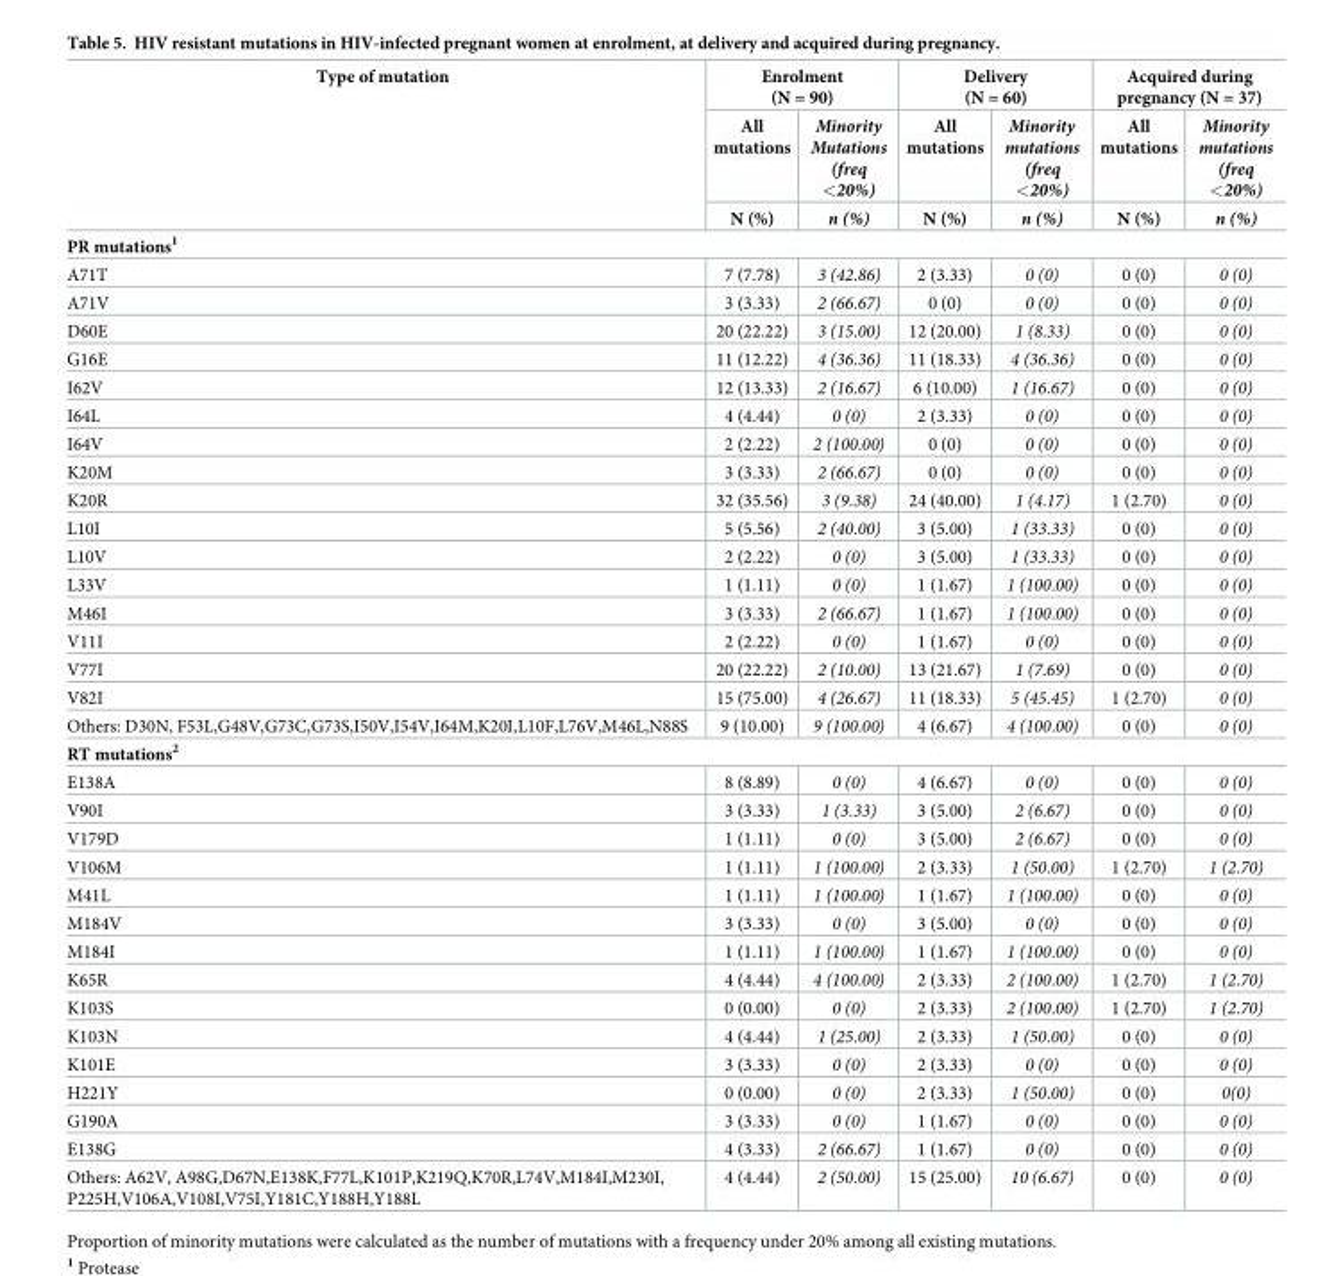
<table><thead><tr><td rowspan="3">Type of mutation</td><td colspan="2">Enrolment (N = 90)</td><td colspan="2">Delivery (N = 60)</td><td colspan="2">Acquired during pregnancy (N = 37)</td></tr><tr><td rowspan="2">All mutations N (%)</td><td rowspan="2">Minority Mutations (freq &lt;20%) n (%)</td><td rowspan="2">All mutations N (%)</td><td rowspan="2">Minority mutations (freq &lt;20%) n (%)</td><td rowspan="2">All mutations N (%)</td><td rowspan="2">Minority mutations (freq &lt;20%) n (%)</td></tr><tr></tr></thead><tbody><tr><td colspan="7">PR mutations<sup>1</sup></td></tr><tr><td>A71T</td><td>7 (7.78)</td><td>3 (42.86)</td><td>2 (3.33)</td><td>0 (0)</td><td>0 (0)</td><td>0 (0)</td></tr><tr><td>A71V</td><td>3 (3.33)</td><td>2 (66.67)</td><td>0 (0)</td><td>0 (0)</td><td>0 (0)</td><td>0 (0)</td></tr><tr><td>D60E</td><td>20 (22.22)</td><td>3 (15.00)</td><td>12 (20.00)</td><td>1 (8.33)</td><td>0 (0)</td><td>0 (0)</td></tr><tr><td>G16E</td><td>11 (12.22)</td><td>4 (36.36)</td><td>11 (18.33)</td><td>4 (36.36)</td><td>0 (0)</td><td>0 (0)</td></tr><tr><td>I62V</td><td>12 (13.33)</td><td>2 (16.67)</td><td>6 (10.00)</td><td>1 (16.67)</td><td>0 (0)</td><td>0 (0)</td></tr><tr><td>I64L</td><td>4 (4.44)</td><td>0 (0)</td><td>2 (3.33)</td><td>0 (0)</td><td>0 (0)</td><td>0 (0)</td></tr><tr><td>I64V</td><td>2 (2.22)</td><td>2 (100.00)</td><td>0 (0)</td><td>0 (0)</td><td>0 (0)</td><td>0 (0)</td></tr><tr><td>K20M</td><td>3 (3.33)</td><td>2 (66.67)</td><td>0 (0)</td><td>0 (0)</td><td>0 (0)</td><td>0 (0)</td></tr><tr><td>K20R</td><td>32 (35.56)</td><td>3 (9.38)</td><td>24 (40.00)</td><td>1 (4.17)</td><td>1 (2.70)</td><td>0 (0)</td></tr><tr><td>L10I</td><td>5 (5.56)</td><td>2 (40.00)</td><td>3 (5.00)</td><td>1 (33.33)</td><td>0 (0)</td><td>0 (0)</td></tr><tr><td>L10V</td><td>2 (2.22)</td><td>0 (0)</td><td>3 (5.00)</td><td>1 (33.33)</td><td>0 (0)</td><td>0 (0)</td></tr><tr><td>L33V</td><td>1 (1.11)</td><td>0 (0)</td><td>1 (1.67)</td><td>1 (100.00)</td><td>0 (0)</td><td>0 (0)</td></tr><tr><td>M46I</td><td>3 (3.33)</td><td>2 (66.67)</td><td>1 (1.67)</td><td>1 (100.00)</td><td>0 (0)</td><td>0 (0)</td></tr><tr><td>V11I</td><td>2 (2.22)</td><td>0 (0)</td><td>1 (1.67)</td><td>0 (0)</td><td>0 (0)</td><td>0 (0)</td></tr><tr><td>V77I</td><td>20 (22.22)</td><td>2 (10.00)</td><td>13 (21.67)</td><td>1 (7.69)</td><td>0 (0)</td><td>0 (0)</td></tr><tr><td>V82I</td><td>15 (75.00)</td><td>4 (26.67)</td><td>11 (18.33)</td><td>5 (45.45)</td><td>1 (2.70)</td><td>0 (0)</td></tr><tr><td>Others: D30N, F53L,G48V,G73C,G73S,I50V,I54V,I64M,K20I,L10F,L76V,M46L,N88S</td><td>9 (10.00)</td><td>9 (100.00)</td><td>4 (6.67)</td><td>4 (100.00)</td><td>0 (0)</td><td>0 (0)</td></tr><tr><td colspan="7">RT mutations<sup>2</sup></td></tr><tr><td>E138A</td><td>8 (8.89)</td><td>0 (0)</td><td>4 (6.67)</td><td>0 (0)</td><td>0 (0)</td><td>0 (0)</td></tr><tr><td>V90I</td><td>3 (3.33)</td><td>1 (3.33)</td><td>3 (5.00)</td><td>2 (6.67)</td><td>0 (0)</td><td>0 (0)</td></tr><tr><td>V179D</td><td>1 (1.11)</td><td>0 (0)</td><td>3 (5.00)</td><td>2 (6.67)</td><td>0 (0)</td><td>0 (0)</td></tr><tr><td>V106M</td><td>1 (1.11)</td><td>1 (100.00)</td><td>2 (3.33)</td><td>1 (50.00)</td><td>1 (2.70)</td><td>1 (2.70)</td></tr><tr><td>M41L</td><td>1 (1.11)</td><td>1 (100.00)</td><td>1 (1.67)</td><td>1 (100.00)</td><td>0 (0)</td><td>0 (0)</td></tr><tr><td>M184V</td><td>3 (3.33)</td><td>0 (0)</td><td>3 (5.00)</td><td>0 (0)</td><td>0 (0)</td><td>0 (0)</td></tr><tr><td>M184I</td><td>1 (1.11)</td><td>1 (100.00)</td><td>1 (1.67)</td><td>1 (100.00)</td><td>0 (0)</td><td>0 (0)</td></tr><tr><td>K65R</td><td>4 (4.44)</td><td>4 (100.00)</td><td>2 (3.33)</td><td>2 (100.00)</td><td>1 (2.70)</td><td>1 (2.70)</td></tr><tr><td>K103S</td><td>0 (0.00)</td><td>0 (0)</td><td>2 (3.33)</td><td>2 (100.00)</td><td>1 (2.70)</td><td>1 (2.70)</td></tr><tr><td>K103N</td><td>4 (4.44)</td><td>1 (25.00)</td><td>2 (3.33)</td><td>1 (50.00)</td><td>0 (0)</td><td>0 (0)</td></tr><tr><td>K101E</td><td>3 (3.33)</td><td>0 (0)</td><td>2 (3.33)</td><td>0 (0)</td><td>0 (0)</td><td>0 (0)</td></tr><tr><td>H221Y</td><td>0 (0.00)</td><td>0 (0)</td><td>2 (3.33)</td><td>1 (50.00)</td><td>0 (0)</td><td>0(0)</td></tr><tr><td>G190A</td><td>3 (3.33)</td><td>0 (0)</td><td>1 (1.67)</td><td>0 (0)</td><td>0 (0)</td><td>0 (0)</td></tr><tr><td>E138G</td><td>4 (3.33)</td><td>2 (66.67)</td><td>1 (1.67)</td><td>0 (0)</td><td>0 (0)</td><td>0 (0)</td></tr><tr><td>Others: A62V, A98G,D67N,E138K,F77L,K101P,K219Q,K70R,L74V,M184I,M230I, P225H,V106A,V108I,V75I,Y181C,Y188H,Y188L</td><td>4 (4.44)</td><td>2 (50.00)</td><td>15 (25.00)</td><td>10 (6.67)</td><td>0 (0)</td><td>0 (0)</td></tr></tbody></table>